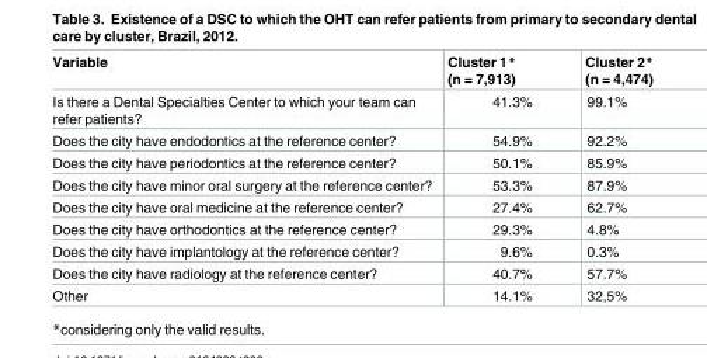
<table><thead><tr><td>Variable</td><td>Cluster 1* (n = 7,913)</td><td>Cluster 2* (n = 4,474)</td></tr></thead><tbody><tr><td>Is there a Dental Specialties Center to which your team can refer patients?</td><td>41.3%</td><td>99.1%</td></tr><tr><td>Does the city have endodontics at the reference center?</td><td>54.9%</td><td>92.2%</td></tr><tr><td>Does the city have periodontics at the reference center?</td><td>50.1%</td><td>85.9%</td></tr><tr><td>Does the city have minor oral surgery at the reference center?</td><td>53.3%</td><td>87.9%</td></tr><tr><td>Does the city have oral medicine at the reference center?</td><td>27.4%</td><td>62.7%</td></tr><tr><td>Does the city have orthodontics at the reference center?</td><td>29.3%</td><td>4.8%</td></tr><tr><td>Does the city have implantology at the reference center?</td><td>9.6%</td><td>0.3%</td></tr><tr><td>Does the city have radiology at the reference center?</td><td>40.7%</td><td>57.7%</td></tr><tr><td>Other</td><td>14.1%</td><td>32,5%</td></tr></tbody></table>